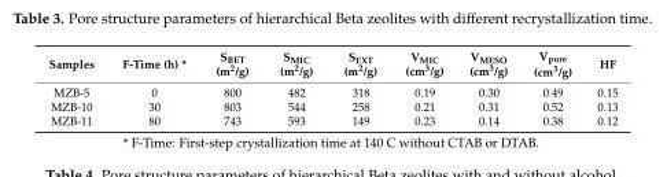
<table><thead><tr><td>Samples</td><td>F-Time (h) *</td><td>SBET (m2/g)</td><td>SMIC (m2/g)</td><td>SEXT (m2/g)</td><td>VMIC (cm3/g)</td><td>VMESO (cm3/g)</td><td>Vpore (cm3/g)</td><td>HF</td></tr></thead><tbody><tr><td>MZB-5</td><td>0</td><td>800</td><td>482</td><td>318</td><td>0.19</td><td>0.30</td><td>0.49</td><td>0.15</td></tr><tr><td>MZB-10</td><td>30</td><td>803</td><td>544</td><td>258</td><td>0.21</td><td>0.31</td><td>0.52</td><td>0.13</td></tr><tr><td>MZB-11</td><td>80</td><td>743</td><td>593</td><td>149</td><td>0.23</td><td>0.14</td><td>0.38</td><td>0.12</td></tr></tbody></table>